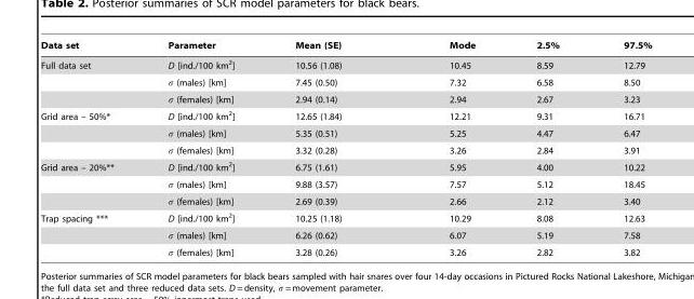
<table><thead><tr><td>Data set</td><td>Parameter</td><td>Mean (SE)</td><td>Mode</td><td>2.5%</td><td>97.5%</td></tr></thead><tbody><tr><td rowspan="3">Full data set</td><td>D [ind./100 km<sup>2</sup>]</td><td>10.56 (1.08)</td><td>10.45</td><td>8.59</td><td>12.79</td></tr><tr><td>σ (males) [km]</td><td>7.45 (0.50)</td><td>7.32</td><td>6.58</td><td>8.50</td></tr><tr><td>σ (females) [km]</td><td>2.94 (0.14)</td><td>2.94</td><td>2.67</td><td>3.23</td></tr><tr><td rowspan="3">Grid area – 50%*</td><td>D [ind./100 km<sup>2</sup>]</td><td>12.65 (1.84)</td><td>12.21</td><td>9.31</td><td>16.71</td></tr><tr><td>σ (males) [km]</td><td>5.35 (0.51)</td><td>5.25</td><td>4.47</td><td>6.47</td></tr><tr><td>σ (females) [km]</td><td>3.32 (0.28)</td><td>3.26</td><td>2.84</td><td>3.91</td></tr><tr><td rowspan="3">Grid area – 20%**</td><td>D [ind./100 km<sup>2</sup>]</td><td>6.75 (1.61)</td><td>5.95</td><td>4.00</td><td>10.22</td></tr><tr><td>σ (males) [km]</td><td>9.88 (3.57)</td><td>7.57</td><td>5.12</td><td>18.45</td></tr><tr><td>σ (females) [km]</td><td>2.69 (0.39)</td><td>2.66</td><td>2.12</td><td>3.40</td></tr><tr><td rowspan="3">Trap spacing ***</td><td>D [ind./100 km<sup>2</sup>]</td><td>10.25 (1.18)</td><td>10.29</td><td>8.08</td><td>12.63</td></tr><tr><td>σ (males) [km]</td><td>6.26 (0.62)</td><td>6.07</td><td>5.19</td><td>7.58</td></tr><tr><td>σ (females) [km]</td><td>3.28 (0.26)</td><td>3.26</td><td>2.82</td><td>3.82</td></tr></tbody></table>